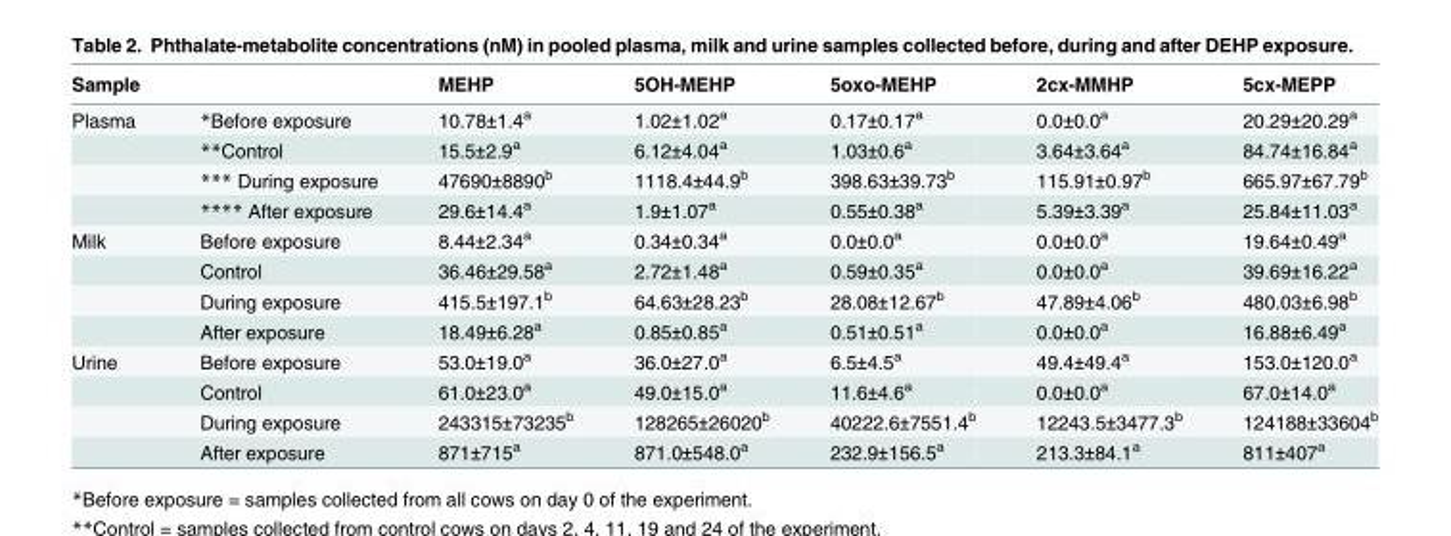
<table><thead><tr><td>Sample</td><td></td><td>MEHP</td><td>5OH-MEHP</td><td>5oxo-MEHP</td><td>2cx-MMHP</td><td>5cx-MEPP</td></tr></thead><tbody><tr><td rowspan="4">Plasma</td><td>*Before exposure</td><td>10.78±1.4<sup>a</sup></td><td>1.02±1.02<sup>a</sup></td><td>0.17±0.17<sup>a</sup></td><td>0.0±0.0<sup>a</sup></td><td>20.29±20.29<sup>a</sup></td></tr><tr><td>**Control</td><td>15.5±2.9<sup>a</sup></td><td>6.12±4.04<sup>a</sup></td><td>1.03±0.6<sup>a</sup></td><td>3.64±3.64<sup>a</sup></td><td>84.74±16.84<sup>a</sup></td></tr><tr><td>*** During exposure</td><td>47690±8890<sup>b</sup></td><td>1118.4±44.9<sup>b</sup></td><td>398.63±39.73<sup>b</sup></td><td>115.91±0.97<sup>b</sup></td><td>665.97±67.79<sup>b</sup></td></tr><tr><td>**** After exposure</td><td>29.6±14.4<sup>a</sup></td><td>1.9±1.07<sup>a</sup></td><td>0.55±0.38<sup>a</sup></td><td>5.39±3.39<sup>a</sup></td><td>25.84±11.03<sup>a</sup></td></tr><tr><td rowspan="4">Milk</td><td>Before exposure</td><td>8.44±2.34<sup>a</sup></td><td>0.34±0.34<sup>a</sup></td><td>0.0±0.0<sup>a</sup></td><td>0.0±0.0<sup>a</sup></td><td>19.64±0.49<sup>a</sup></td></tr><tr><td>Control</td><td>36.46±29.58<sup>a</sup></td><td>2.72±1.48<sup>a</sup></td><td>0.59±0.35<sup>a</sup></td><td>0.0±0.0<sup>a</sup></td><td>39.69±16.22<sup>a</sup></td></tr><tr><td>During exposure</td><td>415.5±197.1<sup>b</sup></td><td>64.63±28.23<sup>b</sup></td><td>28.08±12.67<sup>b</sup></td><td>47.89±4.06<sup>b</sup></td><td>480.03±6.98<sup>b</sup></td></tr><tr><td>After exposure</td><td>18.49±6.28<sup>a</sup></td><td>0.85±0.85<sup>a</sup></td><td>0.51±0.51<sup>a</sup></td><td>0.0±0.0<sup>a</sup></td><td>16.88±6.49<sup>a</sup></td></tr><tr><td rowspan="4">Urine</td><td>Before exposure</td><td>53.0±19.0<sup>a</sup></td><td>36.0±27.0<sup>a</sup></td><td>6.5±4.5<sup>a</sup></td><td>49.4±49.4<sup>a</sup></td><td>153.0±120.0<sup>a</sup></td></tr><tr><td>Control</td><td>61.0±23.0<sup>a</sup></td><td>49.0±15.0<sup>a</sup></td><td>11.6±4.6<sup>a</sup></td><td>0.0±0.0<sup>a</sup></td><td>67.0±14.0<sup>a</sup></td></tr><tr><td>During exposure</td><td>243315±73235<sup>b</sup></td><td>128265±26020<sup>b</sup></td><td>40222.6±7551.4<sup>b</sup></td><td>12243.5±3477.3<sup>b</sup></td><td>124188±33604<sup>b</sup></td></tr><tr><td>After exposure</td><td>871±715<sup>a</sup></td><td>871.0±548.0<sup>a</sup></td><td>232.9±156.5<sup>a</sup></td><td>213.3±84.1<sup>a</sup></td><td>811±407<sup>a</sup></td></tr></tbody></table>